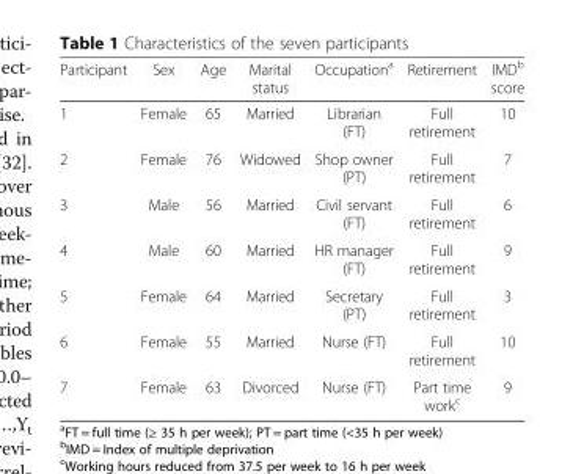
<table><thead><tr><td>Participant</td><td>Sex</td><td>Age</td><td>Marital status</td><td>Occupation<sup>a</sup></td><td>Retirement</td><td>IMD<sup>b</sup> score</td></tr></thead><tbody><tr><td>1</td><td>Female</td><td>65</td><td>Married</td><td>Librarian (FT)</td><td>Full retirement</td><td>10</td></tr><tr><td>2</td><td>Female</td><td>76</td><td>Widowed</td><td>Shop owner (PT)</td><td>Full retirement</td><td>7</td></tr><tr><td>3</td><td>Male</td><td>56</td><td>Married</td><td>Civil servant (FT)</td><td>Full retirement</td><td>6</td></tr><tr><td>4</td><td>Male</td><td>60</td><td>Married</td><td>HR manager (FT)</td><td>Full retirement</td><td>9</td></tr><tr><td>5</td><td>Female</td><td>64</td><td>Married</td><td>Secretary (PT)</td><td>Full retirement</td><td>3</td></tr><tr><td>6</td><td>Female</td><td>55</td><td>Married</td><td>Nurse (FT)</td><td>Full retirement</td><td>10</td></tr><tr><td>7</td><td>Female</td><td>63</td><td>Divorced</td><td>Nurse (FT)</td><td>Part time work<sup>c</sup></td><td>9</td></tr></tbody></table>